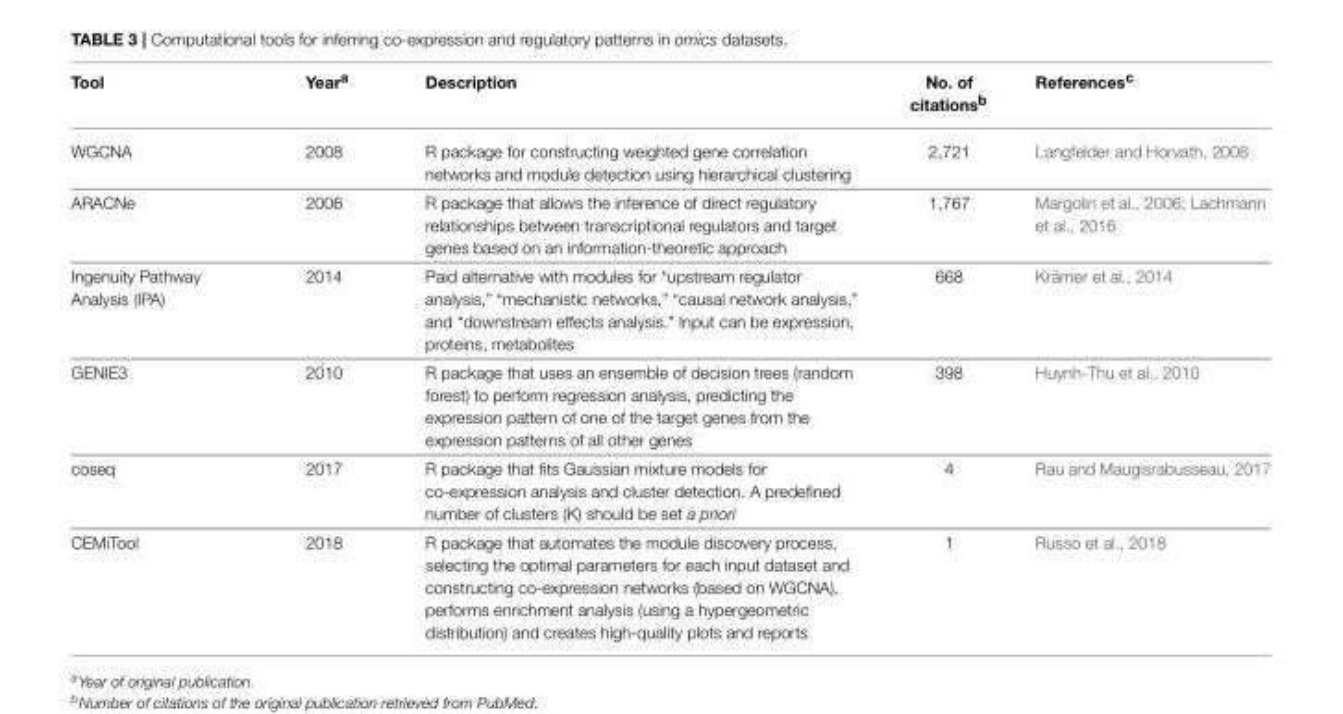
<table><thead><tr><td>Tool</td><td>Year<sup>a</sup></td><td>Description</td><td>No. of citations<sup>b</sup></td><td>References<sup>c</sup></td></tr></thead><tbody><tr><td>WGCNA</td><td>2008</td><td>R package for constructing weighted gene correlation networks and module detection using hierarchical clustering</td><td>2,721</td><td>Langfelder and Horvath, 2008</td></tr><tr><td>ARACNe</td><td>2006</td><td>R package that allows the inference of direct regulatory relationships between transcriptional regulators and target genes based on an information-theoretic approach</td><td>1,767</td><td>Margolin et al., 2006; Lachmann et al., 2016</td></tr><tr><td>Ingenuity Pathway Analysis (IPA)</td><td>2014</td><td>Paid alternative with modules for “upstream regulator analysis,” “mechanistic networks,” “causal network analysis,” and “downstream effects analysis.” Input can be expression, proteins, metabolites</td><td>668</td><td>Krämer et al., 2014</td></tr><tr><td>GENIE3</td><td>2010</td><td>R package that uses an ensemble of decision trees (random forest) to perform regression analysis, predicting the expression pattern of one of the target genes from the expression patterns of all other genes</td><td>398</td><td>Huynh-Thu et al., 2010</td></tr><tr><td>coseq</td><td>2017</td><td>R package that fits Gaussian mixture models for co-expression analysis and cluster detection. A predefined number of clusters (K) should be set a priori</td><td>4</td><td>Rau and Maugisrabusseau, 2017</td></tr><tr><td>CEMiTool</td><td>2018</td><td>R package that automates the module discovery process, selecting the optimal parameters for each input dataset and constructing co-expression networks (based on WGCNA), performs enrichment analysis (using a hypergeometric distribution) and creates high-quality plots and reports</td><td>1</td><td>Russo et al., 2018</td></tr></tbody></table>